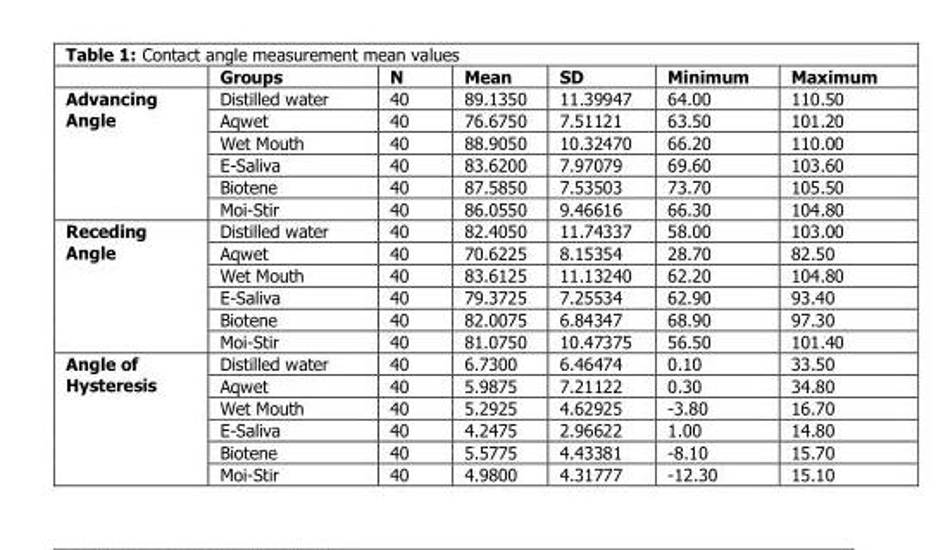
<table><thead><tr><td></td><td>Groups</td><td>N</td><td>Mean</td><td>SD</td><td>Minimum</td><td>Maximum</td></tr></thead><tbody><tr><td rowspan="6">Advancing Angle</td><td>Distilled water</td><td>40</td><td>89.1350</td><td>11.39947</td><td>64.00</td><td>110.50</td></tr><tr><td>Aqwet</td><td>40</td><td>76.6750</td><td>7.51121</td><td>63.50</td><td>101.20</td></tr><tr><td>Wet Mouth</td><td>40</td><td>88.9050</td><td>10.32470</td><td>66.20</td><td>110.00</td></tr><tr><td>E-Saliva</td><td>40</td><td>83.6200</td><td>7.97079</td><td>69.60</td><td>103.60</td></tr><tr><td>Biotene</td><td>40</td><td>87.5850</td><td>7.53503</td><td>73.70</td><td>105.50</td></tr><tr><td>Moi-Stir</td><td>40</td><td>86.0550</td><td>9.46616</td><td>66.30</td><td>104.80</td></tr><tr><td rowspan="6">Receding Angle</td><td>Distilled water</td><td>40</td><td>82.4050</td><td>11.74337</td><td>58.00</td><td>103.00</td></tr><tr><td>Aqwet</td><td>40</td><td>70.6225</td><td>8.15354</td><td>28.70</td><td>82.50</td></tr><tr><td>Wet Mouth</td><td>40</td><td>83.6125</td><td>11.13240</td><td>62.20</td><td>104.80</td></tr><tr><td>E-Saliva</td><td>40</td><td>79.3725</td><td>7.25534</td><td>62.90</td><td>93.40</td></tr><tr><td>Biotene</td><td>40</td><td>82.0075</td><td>6.84347</td><td>68.90</td><td>97.30</td></tr><tr><td>Moi-Stir</td><td>40</td><td>81.0750</td><td>10.47375</td><td>56.50</td><td>101.40</td></tr><tr><td rowspan="6">Angle of Hysteresis</td><td>Distilled water</td><td>40</td><td>6.7300</td><td>6.46474</td><td>0.10</td><td>33.50</td></tr><tr><td>Aqwet</td><td>40</td><td>5.9875</td><td>7.21122</td><td>0.30</td><td>34.80</td></tr><tr><td>Wet Mouth</td><td>40</td><td>5.2925</td><td>4.62925</td><td>-3.80</td><td>16.70</td></tr><tr><td>E-Saliva</td><td>40</td><td>4.2475</td><td>2.96622</td><td>1.00</td><td>14.80</td></tr><tr><td>Biotene</td><td>40</td><td>5.5775</td><td>4.43381</td><td>-8.10</td><td>15.70</td></tr><tr><td>Moi-Stir</td><td>40</td><td>4.9800</td><td>4.31777</td><td>-12.30</td><td>15.10</td></tr></tbody></table>